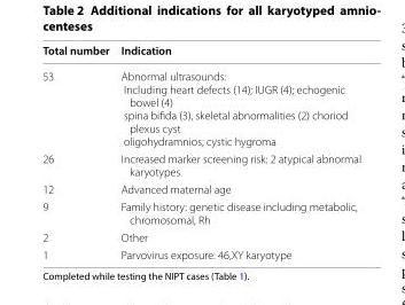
<table><thead><tr><td>Total number</td><td>Indication</td></tr></thead><tbody><tr><td>53</td><td>Abnormal ultrasounds: Including heart defects (14); IUGR (4); echogenic bowel (4) spina bifida (3), skeletal abnormalities (2) choriod plexus cyst oligohydramnios; cystic hygroma</td></tr><tr><td>26</td><td>Increased marker screening risk: 2 atypical abnormal karyotypes</td></tr><tr><td>12</td><td>Advanced maternal age</td></tr><tr><td>9</td><td>Family history: genetic disease including metabolic, chromosomal, Rh</td></tr><tr><td>2</td><td>Other</td></tr><tr><td>1</td><td>Parvovirus exposure: 46,XY karyotype</td></tr></tbody></table>